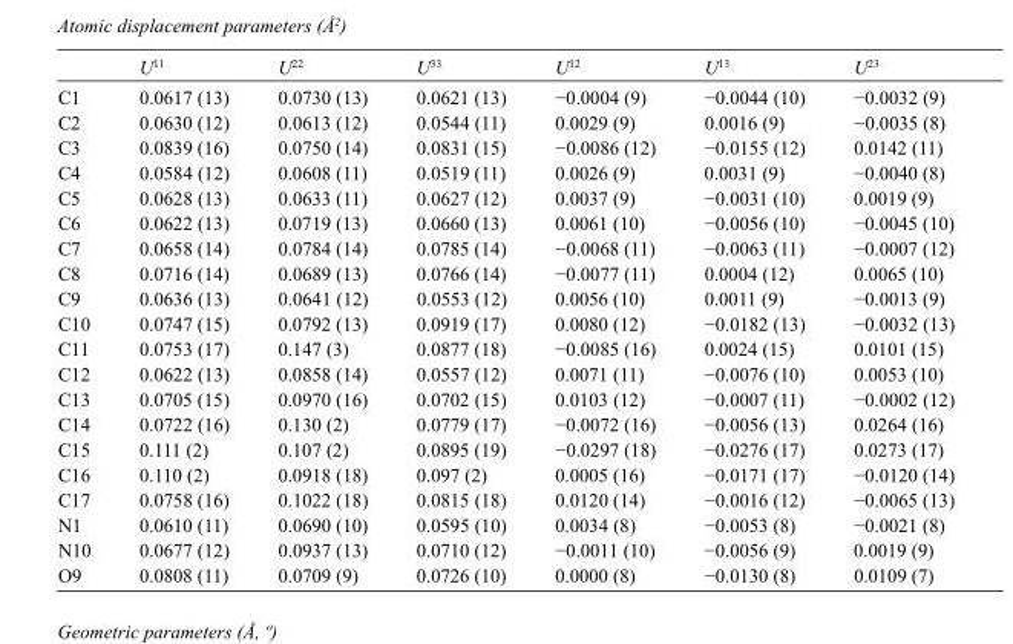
<table><thead><tr><td></td><td>U<sup>11</sup></td><td>U<sup>22</sup></td><td>U<sup>33</sup></td><td>U<sup>12</sup></td><td>U<sup>13</sup></td><td>U<sup>23</sup></td></tr></thead><tbody><tr><td>C1</td><td>0.0617 (13)</td><td>0.0730 (13)</td><td>0.0621 (13)</td><td>−0.0004 (9)</td><td>−0.0044 (10)</td><td>−0.0032 (9)</td></tr><tr><td>C2</td><td>0.0630 (12)</td><td>0.0613 (12)</td><td>0.0544 (11)</td><td>0.0029 (9)</td><td>0.0016 (9)</td><td>−0.0035 (8)</td></tr><tr><td>C3</td><td>0.0839 (16)</td><td>0.0750 (14)</td><td>0.0831 (15)</td><td>−0.0086 (12)</td><td>−0.0155 (12)</td><td>0.0142 (11)</td></tr><tr><td>C4</td><td>0.0584 (12)</td><td>0.0608 (11)</td><td>0.0519 (11)</td><td>0.0026 (9)</td><td>0.0031 (9)</td><td>−0.0040 (8)</td></tr><tr><td>C5</td><td>0.0628 (13)</td><td>0.0633 (11)</td><td>0.0627 (12)</td><td>0.0037 (9)</td><td>−0.0031 (10)</td><td>0.0019 (9)</td></tr><tr><td>C6</td><td>0.0622 (13)</td><td>0.0719 (13)</td><td>0.0660 (13)</td><td>0.0061 (10)</td><td>−0.0056 (10)</td><td>−0.0045 (10)</td></tr><tr><td>C7</td><td>0.0658 (14)</td><td>0.0784 (14)</td><td>0.0785 (14)</td><td>−0.0068 (11)</td><td>−0.0063 (11)</td><td>−0.0007 (12)</td></tr><tr><td>C8</td><td>0.0716 (14)</td><td>0.0689 (13)</td><td>0.0766 (14)</td><td>−0.0077 (11)</td><td>0.0004 (12)</td><td>0.0065 (10)</td></tr><tr><td>C9</td><td>0.0636 (13)</td><td>0.0641 (12)</td><td>0.0553 (12)</td><td>0.0056 (10)</td><td>0.0011 (9)</td><td>−0.0013 (9)</td></tr><tr><td>C10</td><td>0.0747 (15)</td><td>0.0792 (13)</td><td>0.0919 (17)</td><td>0.0080 (12)</td><td>−0.0182 (13)</td><td>−0.0032 (13)</td></tr><tr><td>C11</td><td>0.0753 (17)</td><td>0.147 (3)</td><td>0.0877 (18)</td><td>−0.0085 (16)</td><td>0.0024 (15)</td><td>0.0101 (15)</td></tr><tr><td>C12</td><td>0.0622 (13)</td><td>0.0858 (14)</td><td>0.0557 (12)</td><td>0.0071 (11)</td><td>−0.0076 (10)</td><td>0.0053 (10)</td></tr><tr><td>C13</td><td>0.0705 (15)</td><td>0.0970 (16)</td><td>0.0702 (15)</td><td>0.0103 (12)</td><td>−0.0007 (11)</td><td>−0.0002 (12)</td></tr><tr><td>C14</td><td>0.0722 (16)</td><td>0.130 (2)</td><td>0.0779 (17)</td><td>−0.0072 (16)</td><td>−0.0056 (13)</td><td>0.0264 (16)</td></tr><tr><td>C15</td><td>0.111 (2)</td><td>0.107 (2)</td><td>0.0895 (19)</td><td>−0.0297 (18)</td><td>−0.0276 (17)</td><td>0.0273 (17)</td></tr><tr><td>C16</td><td>0.110 (2)</td><td>0.0918 (18)</td><td>0.097 (2)</td><td>0.0005 (16)</td><td>−0.0171 (17)</td><td>−0.0120 (14)</td></tr><tr><td>C17</td><td>0.0758 (16)</td><td>0.1022 (18)</td><td>0.0815 (18)</td><td>0.0120 (14)</td><td>−0.0016 (12)</td><td>−0.0065 (13)</td></tr><tr><td>N1</td><td>0.0610 (11)</td><td>0.0690 (10)</td><td>0.0595 (10)</td><td>0.0034 (8)</td><td>−0.0053 (8)</td><td>−0.0021 (8)</td></tr><tr><td>N10</td><td>0.0677 (12)</td><td>0.0937 (13)</td><td>0.0710 (12)</td><td>−0.0011 (10)</td><td>−0.0056 (9)</td><td>0.0019 (9)</td></tr><tr><td>O9</td><td>0.0808 (11)</td><td>0.0709 (9)</td><td>0.0726 (10)</td><td>0.0000 (8)</td><td>−0.0130 (8)</td><td>0.0109 (7)</td></tr></tbody></table>